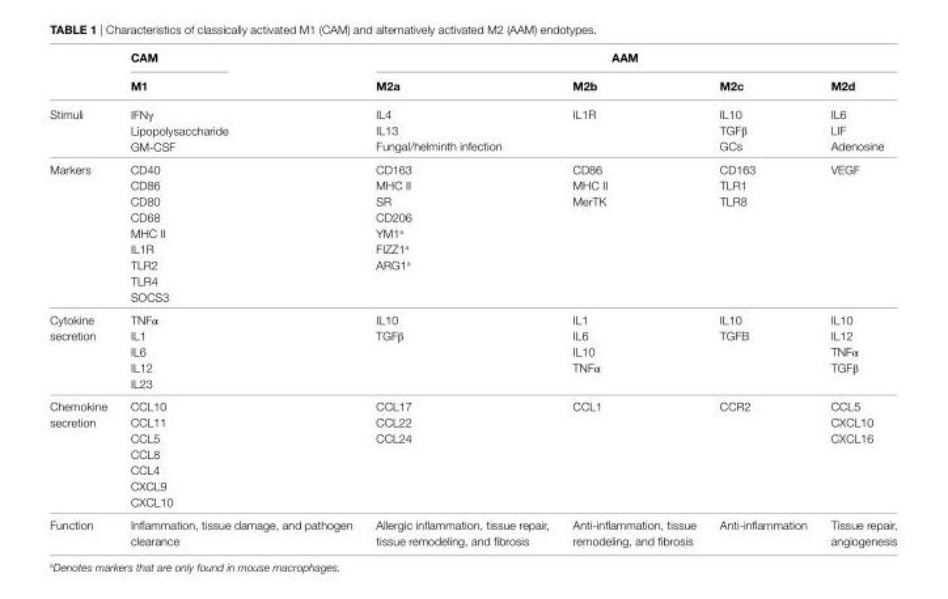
<table><thead><tr><td rowspan="2"></td><td rowspan="2">CAM M1</td><td colspan="4">AAM</td></tr><tr><td>M2a</td><td>M2b</td><td>M2c</td><td>M2d</td></tr></thead><tbody><tr><td>Stimuli</td><td>IFNγ Lipopolysaccharide GM-CSF</td><td>IL4 IL13 Fungal/helminth infection</td><td>IL1R</td><td>IL10 TGFβ GCs</td><td>IL6 LIF Adenosine</td></tr><tr><td>Markers</td><td>CD40 CD86 CD80 CD68 MHC II IL1R TLR2 TLR4 SOCS3</td><td>CD163 MHC II SR CD206 YM1<sup>a</sup> FIZZ1<sup>a</sup> ARG1<sup>a</sup></td><td>CD86 MHC II MerTK</td><td>CD163 TLR1 TLR8</td><td>VEGF</td></tr><tr><td>Cytokine secretion</td><td>TNFα IL1 IL6 IL12 IL23</td><td>IL10 TGFβ</td><td>IL1 IL6 IL10 TNFα</td><td>IL10 TGFB</td><td>IL10 IL12 TNFα TGFβ</td></tr><tr><td>Chemokine secretion</td><td>CCL10 CCL11 CCL5 CCL8 CCL4 CXCL9 CXCL10</td><td>CCL17 CCL22 CCL24</td><td>CCL1</td><td>CCR2</td><td>CCL5 CXCL10 CXCL16</td></tr><tr><td>Function</td><td>Inflammation, tissue damage, and pathogen clearance</td><td>Allergic inflammation, tissue repair, tissue remodeling, and fibrosis</td><td>Anti-inflammation, tissue remodeling, and fibrosis</td><td>Anti-inflammation</td><td>Tissue repair, angiogenesis</td></tr></tbody></table>